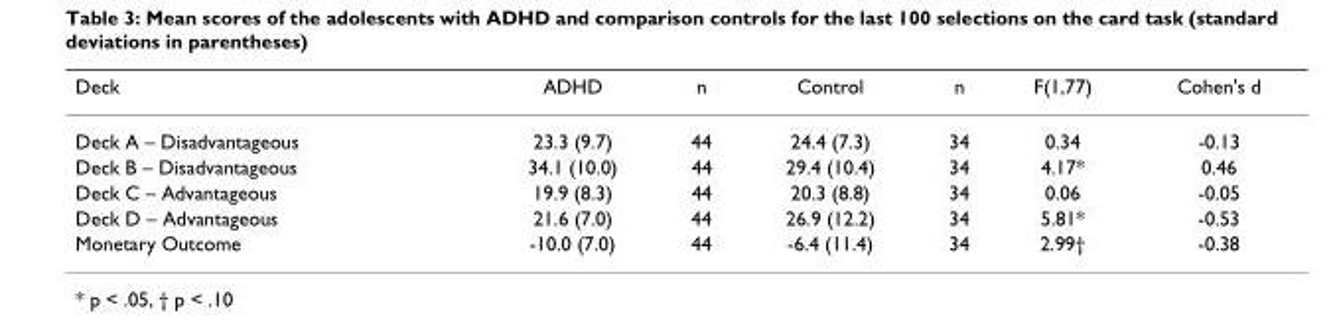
<table><thead><tr><td>Deck</td><td>ADHD</td><td>n</td><td>Control</td><td>n</td><td>F(1,77)</td><td>Cohen&#x27;s d</td></tr></thead><tbody><tr><td>Deck A – Disadvantageous</td><td>23.3 (9.7)</td><td>44</td><td>24.4 (7.3)</td><td>34</td><td>0.34</td><td>-0.13</td></tr><tr><td>Deck B – Disadvantageous</td><td>34.1 (10.0)</td><td>44</td><td>29.4 (10.4)</td><td>34</td><td>4.17*</td><td>0.46</td></tr><tr><td>Deck C – Advantageous</td><td>19.9 (8.3)</td><td>44</td><td>20.3 (8.8)</td><td>34</td><td>0.06</td><td>-0.05</td></tr><tr><td>Deck D – Advantageous</td><td>21.6 (7.0)</td><td>44</td><td>26.9 (12.2)</td><td>34</td><td>5.81*</td><td>-0.53</td></tr><tr><td>Monetary Outcome</td><td>-10.0 (7.0)</td><td>44</td><td>-6.4 (11.4)</td><td>34</td><td>2.99†</td><td>-0.38</td></tr></tbody></table>